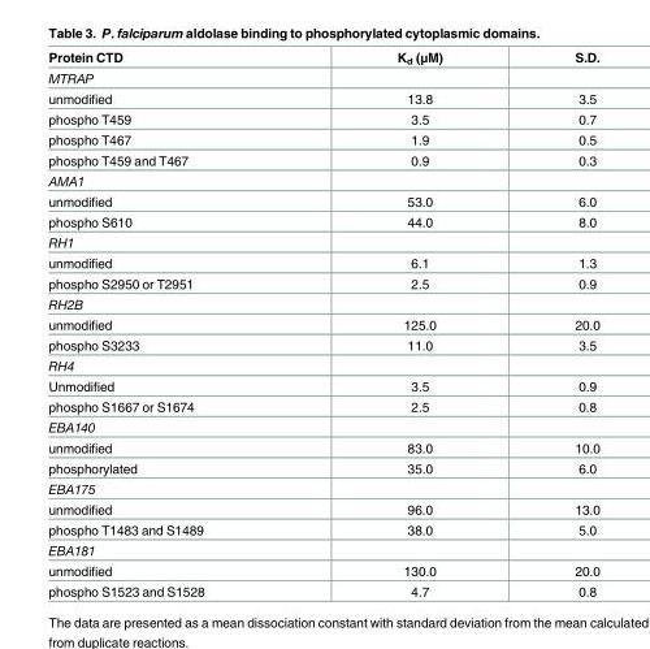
<table><thead><tr><td>Protein CTD</td><td>K<sub>d</sub> (μM)</td><td>S.D.</td></tr></thead><tbody><tr><td colspan="3">MTRAP</td></tr><tr><td>unmodified</td><td>13.8</td><td>3.5</td></tr><tr><td>phospho T459</td><td>3.5</td><td>0.7</td></tr><tr><td>phospho T467</td><td>1.9</td><td>0.5</td></tr><tr><td>phospho T459 and T467</td><td>0.9</td><td>0.3</td></tr><tr><td colspan="3">AMA1</td></tr><tr><td>unmodified</td><td>53.0</td><td>6.0</td></tr><tr><td>phospho S610</td><td>44.0</td><td>8.0</td></tr><tr><td colspan="3">RH1</td></tr><tr><td>unmodified</td><td>6.1</td><td>1.3</td></tr><tr><td>phospho S2950 or T2951</td><td>2.5</td><td>0.9</td></tr><tr><td colspan="3">RH2B</td></tr><tr><td>unmodified</td><td>125.0</td><td>20.0</td></tr><tr><td>phospho S3233</td><td>11.0</td><td>3.5</td></tr><tr><td colspan="3">RH4</td></tr><tr><td>Unmodified</td><td>3.5</td><td>0.9</td></tr><tr><td>phospho S1667 or S1674</td><td>2.5</td><td>0.8</td></tr><tr><td colspan="3">EBA140</td></tr><tr><td>unmodified</td><td>83.0</td><td>10.0</td></tr><tr><td>phosphorylated</td><td>35.0</td><td>6.0</td></tr><tr><td colspan="3">EBA175</td></tr><tr><td>unmodified</td><td>96.0</td><td>13.0</td></tr><tr><td>phospho T1483 and S1489</td><td>38.0</td><td>5.0</td></tr><tr><td colspan="3">EBA181</td></tr><tr><td>unmodified</td><td>130.0</td><td>20.0</td></tr><tr><td>phospho S1523 and S1528</td><td>4.7</td><td>0.8</td></tr></tbody></table>